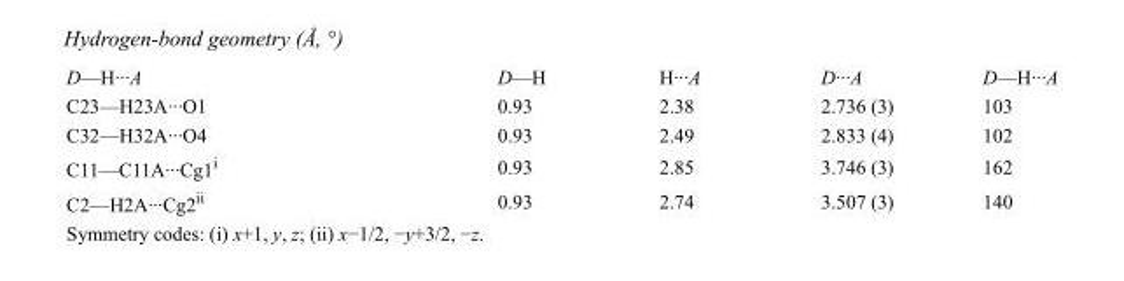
<table><tbody><tr><td>D—H···A</td><td>D—H</td><td>H···A</td><td>D···A</td><td>D—H···A</td></tr><tr><td>C23—H23A···O1</td><td>0.93</td><td>2.38</td><td>2.736 (3)</td><td>103</td></tr><tr><td>C32—H32A···O4</td><td>0.93</td><td>2.49</td><td>2.833 (4)</td><td>102</td></tr><tr><td>C11—C11A···Cg1<sup>i</sup></td><td>0.93</td><td>2.85</td><td>3.746 (3)</td><td>162</td></tr><tr><td>C2—H2A···Cg2<sup>ii</sup></td><td>0.93</td><td>2.74</td><td>3.507 (3)</td><td>140</td></tr></tbody></table>